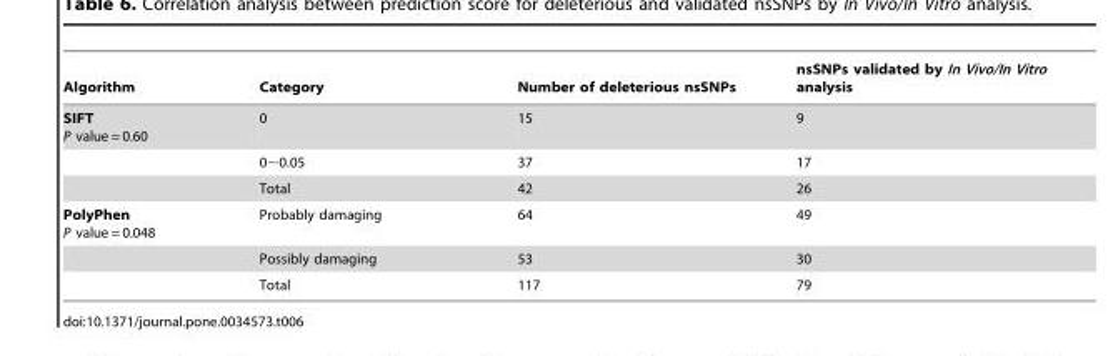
<table><thead><tr><td>Algorithm</td><td>Category</td><td>Number of deleterious nsSNPs</td><td>nsSNPs validated by In Vivo/In Vitro analysis</td></tr></thead><tbody><tr><td rowspan="3">SIFT P value = 0.60</td><td>0</td><td>15</td><td>9</td></tr><tr><td>0∼0.05</td><td>37</td><td>17</td></tr><tr><td>Total</td><td>42</td><td>26</td></tr><tr><td rowspan="3">PolyPhen P value = 0.048</td><td>Probably damaging</td><td>64</td><td>49</td></tr><tr><td>Possibly damaging</td><td>53</td><td>30</td></tr><tr><td>Total</td><td>117</td><td>79</td></tr></tbody></table>